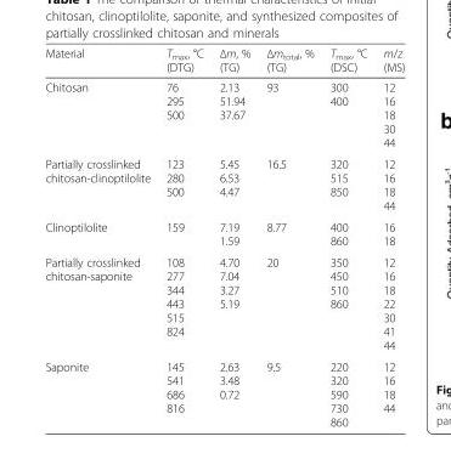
<table><thead><tr><td>Material</td><td>T<sub>max</sub>, °C (DTG)</td><td>Δm, % (TG)</td><td>Δmtotal, % (TG)</td><td>T<sub>max</sub>, °C (DSC)</td><td>m/z (MS)</td></tr></thead><tbody><tr><td>Chitosan</td><td>76 295 500</td><td>2.13 51.94 37.67</td><td>93</td><td>300 400</td><td>12 16 18 30 44</td></tr><tr><td>Partially crosslinked chitosan-clinoptilolite</td><td>123 280 500</td><td>5.45 6.53 4.47</td><td>16.5</td><td>320 515 850</td><td>12 16 18 44</td></tr><tr><td>Clinoptilolite</td><td>159</td><td>7.19 1.59</td><td>8.77</td><td>400 860</td><td>16 18</td></tr><tr><td>Partially crosslinked chitosan-saponite</td><td>108 277 344 443 515 824</td><td>4.70 7.04 3.27 5.19</td><td>20</td><td>350 450 510 860</td><td>12 16 18 22 30 41 44</td></tr><tr><td>Saponite</td><td>145 541 686 816</td><td>2.63 3.48 0.72</td><td>9.5</td><td>220 320 590 730 860</td><td>12 16 18 44</td></tr></tbody></table>